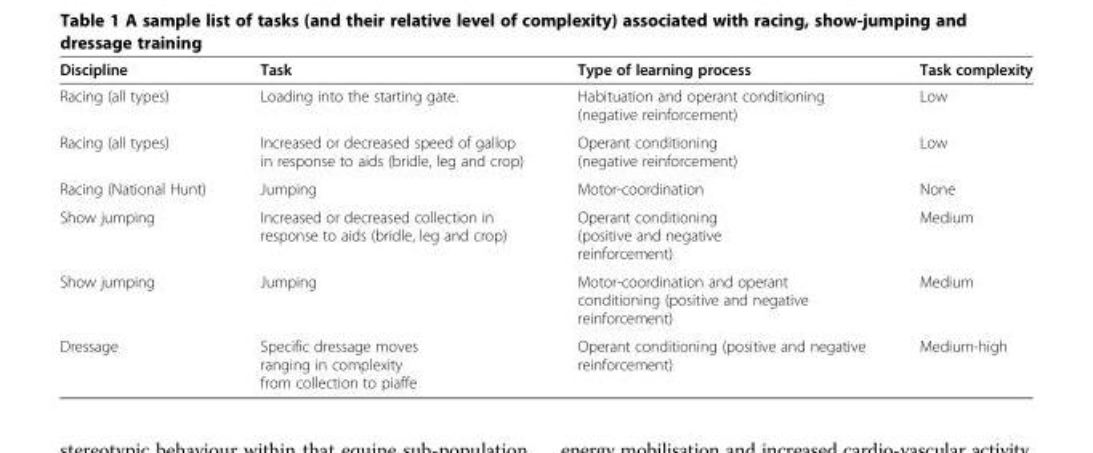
<table><thead><tr><td>Discipline</td><td>Task</td><td>Type of learning process</td><td>Task complexity</td></tr></thead><tbody><tr><td>Racing (all types)</td><td>Loading into the starting gate.</td><td>Habituation and operant conditioning (negative reinforcement)</td><td>Low</td></tr><tr><td>Racing (all types)</td><td>Increased or decreased speed of gallop in response to aids (bridle, leg and crop)</td><td>Operant conditioning (negative reinforcement)</td><td>Low</td></tr><tr><td>Racing (National Hunt)</td><td>Jumping</td><td>Motor-coordination</td><td>None</td></tr><tr><td>Show jumping</td><td>Increased or decreased collection in response to aids (bridle, leg and crop)</td><td>Operant conditioning (positive and negative reinforcement)</td><td>Medium</td></tr><tr><td>Show jumping</td><td>Jumping</td><td>Motor-coordination and operant conditioning (positive and negative reinforcement)</td><td>Medium</td></tr><tr><td>Dressage</td><td>Specific dressage moves ranging in complexity from collection to piaffe</td><td>Operant conditioning (positive and negative reinforcement)</td><td>Medium-high</td></tr></tbody></table>